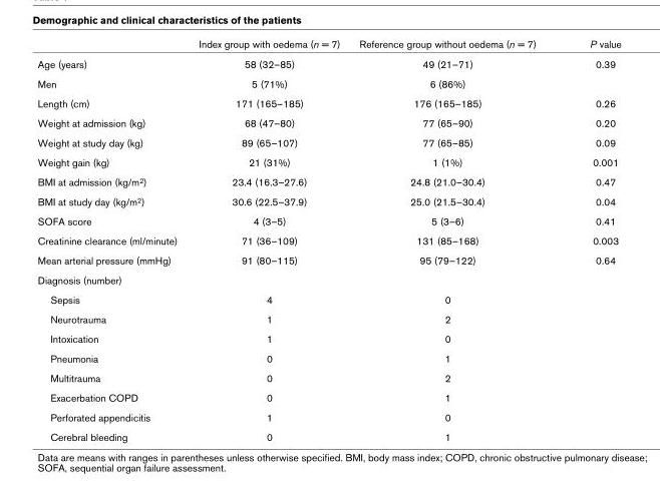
<table><thead><tr><td></td><td>Index group with oedema (n = 7)</td><td>Reference group without oedema (n = 7)</td><td>P value</td></tr></thead><tbody><tr><td>Age (years)</td><td>58 (32–85)</td><td>49 (21–71)</td><td>0.39</td></tr><tr><td>Men</td><td>5 (71%)</td><td>6 (86%)</td><td></td></tr><tr><td>Length (cm)</td><td>171 (165–185)</td><td>176 (165–185)</td><td>0.26</td></tr><tr><td>Weight at admission (kg)</td><td>68 (47–80)</td><td>77 (65–90)</td><td>0.20</td></tr><tr><td>Weight at study day (kg)</td><td>89 (65–107)</td><td>77 (65–85)</td><td>0.09</td></tr><tr><td>Weight gain (kg)</td><td>21 (31%)</td><td>1 (1%)</td><td>0.001</td></tr><tr><td>BMI at admission (kg/m2)</td><td>23.4 (16.3–27.6)</td><td>24.8 (21.0–30.4)</td><td>0.47</td></tr><tr><td>BMI at study day (kg/m2)</td><td>30.6 (22.5–37.9)</td><td>25.0 (21.5–30.4)</td><td>0.04</td></tr><tr><td>SOFA score</td><td>4 (3–5)</td><td>5 (3–6)</td><td>0.41</td></tr><tr><td>Creatinine clearance (ml/minute)</td><td>71 (36–109)</td><td>131 (85–168)</td><td>0.003</td></tr><tr><td>Mean arterial pressure (mmHg)</td><td>91 (80–115)</td><td>95 (79–122)</td><td>0.64</td></tr><tr><td colspan="4">Diagnosis (number)</td></tr><tr><td>Sepsis</td><td>4</td><td>0</td><td></td></tr><tr><td>Neurotrauma</td><td>1</td><td>2</td><td></td></tr><tr><td>Intoxication</td><td>1</td><td>0</td><td></td></tr><tr><td>Pneumonia</td><td>0</td><td>1</td><td></td></tr><tr><td>Multitrauma</td><td>0</td><td>2</td><td></td></tr><tr><td>Exacerbation COPD</td><td>0</td><td>1</td><td></td></tr><tr><td>Perforated appendicitis</td><td>1</td><td>0</td><td></td></tr><tr><td>Cerebral bleeding</td><td>0</td><td>1</td><td></td></tr></tbody></table>